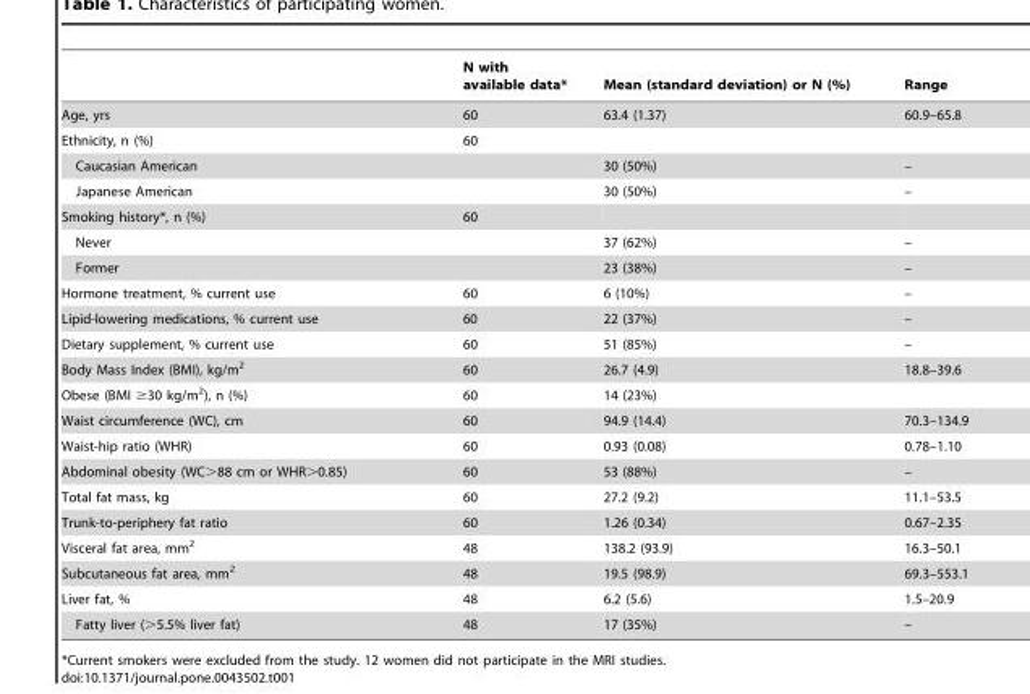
<table><thead><tr><td></td><td>N with available data*</td><td>Mean (standard deviation) or N (%)</td><td>Range</td></tr></thead><tbody><tr><td>Age, yrs</td><td>60</td><td>63.4 (1.37)</td><td>60.9–65.8</td></tr><tr><td>Ethnicity, n (%)</td><td>60</td><td></td><td></td></tr><tr><td>Caucasian American</td><td></td><td>30 (50%)</td><td>–</td></tr><tr><td>Japanese American</td><td></td><td>30 (50%)</td><td>–</td></tr><tr><td>Smoking history*, n (%)</td><td>60</td><td></td><td></td></tr><tr><td>Never</td><td></td><td>37 (62%)</td><td>–</td></tr><tr><td>Former</td><td></td><td>23 (38%)</td><td>–</td></tr><tr><td>Hormone treatment, % current use</td><td>60</td><td>6 (10%)</td><td>–</td></tr><tr><td>Lipid-lowering medications, % current use</td><td>60</td><td>22 (37%)</td><td>–</td></tr><tr><td>Dietary supplement, % current use</td><td>60</td><td>51 (85%)</td><td>–</td></tr><tr><td>Body Mass Index (BMI), kg/m<sup>2</sup></td><td>60</td><td>26.7 (4.9)</td><td>18.8–39.6</td></tr><tr><td>Obese (BMI ≥30 kg/m<sup>2</sup>), n (%)</td><td>60</td><td>14 (23%)</td><td></td></tr><tr><td>Waist circumference (WC), cm</td><td>60</td><td>94.9 (14.4)</td><td>70.3–134.9</td></tr><tr><td>Waist-hip ratio (WHR)</td><td>60</td><td>0.93 (0.08)</td><td>0.78–1.10</td></tr><tr><td>Abdominal obesity (WC&gt;88 cm or WHR&gt;0.85)</td><td>60</td><td>53 (88%)</td><td>–</td></tr><tr><td>Total fat mass, kg</td><td>60</td><td>27.2 (9.2)</td><td>11.1–53.5</td></tr><tr><td>Trunk-to-periphery fat ratio</td><td>60</td><td>1.26 (0.34)</td><td>0.67–2.35</td></tr><tr><td>Visceral fat area, mm<sup>2</sup></td><td>48</td><td>138.2 (93.9)</td><td>16.3–50.1</td></tr><tr><td>Subcutaneous fat area, mm<sup>2</sup></td><td>48</td><td>19.5 (98.9)</td><td>69.3–553.1</td></tr><tr><td>Liver fat, %</td><td>48</td><td>6.2 (5.6)</td><td>1.5–20.9</td></tr><tr><td>Fatty liver (&gt;5.5% liver fat)</td><td>48</td><td>17 (35%)</td><td>–</td></tr></tbody></table>